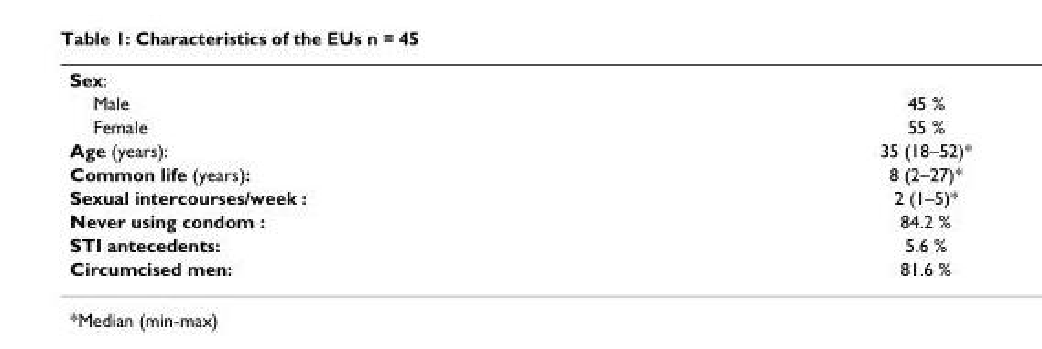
<table><tbody><tr><td colspan="2">Sex:</td></tr><tr><td>Male</td><td>45 %</td></tr><tr><td>Female</td><td>55 %</td></tr><tr><td>Age (years):</td><td>35 (18–52)*</td></tr><tr><td>Common life (years):</td><td>8 (2–27)*</td></tr><tr><td>Sexual intercourses/week :</td><td>2 (1–5)*</td></tr><tr><td>Never using condom :</td><td>84.2 %</td></tr><tr><td>STI antecedents:</td><td>5.6 %</td></tr><tr><td>Circumcised men:</td><td>81.6 %</td></tr></tbody></table>